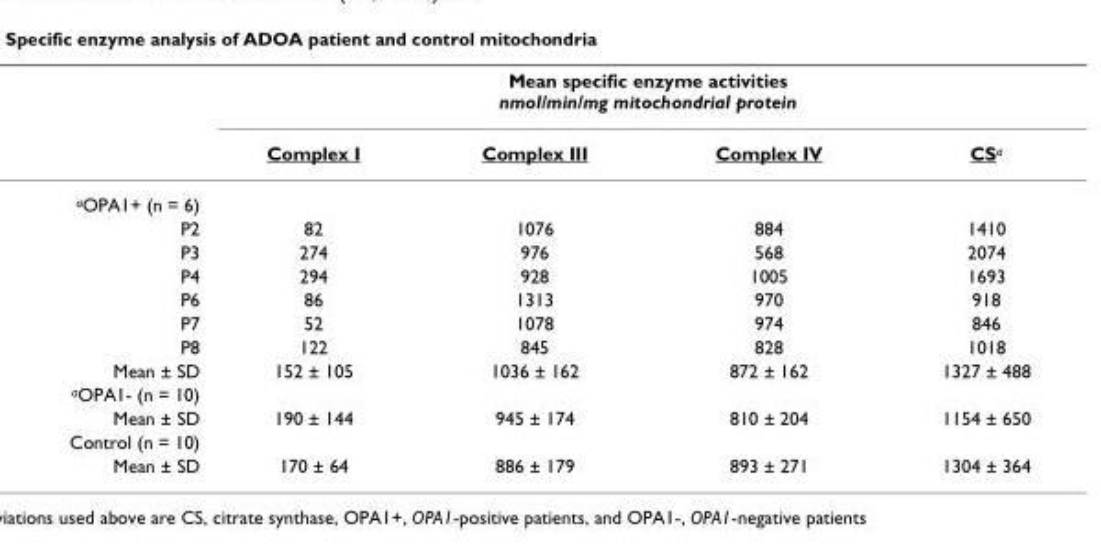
<table><thead><tr><td rowspan="2"></td><td colspan="4">Mean specific enzyme activities nmol/min/mg mitochondrial protein</td></tr><tr><td>Complex I</td><td>Complex III</td><td>Complex IV</td><td>CS<sup>a</sup></td></tr></thead><tbody><tr><td colspan="5"><sup>a</sup>OPA1+ (n = 6)</td></tr><tr><td>P2</td><td>82</td><td>1076</td><td>884</td><td>1410</td></tr><tr><td>P3</td><td>274</td><td>976</td><td>568</td><td>2074</td></tr><tr><td>P4</td><td>294</td><td>928</td><td>1005</td><td>1693</td></tr><tr><td>P6</td><td>86</td><td>1313</td><td>970</td><td>918</td></tr><tr><td>P7</td><td>52</td><td>1078</td><td>974</td><td>846</td></tr><tr><td>P8</td><td>122</td><td>845</td><td>828</td><td>1018</td></tr><tr><td>Mean ± SD</td><td>152 ± 105</td><td>1036 ± 162</td><td>872 ± 162</td><td>1327 ± 488</td></tr><tr><td colspan="5"><sup>a</sup>OPA1- (n = 10)</td></tr><tr><td>Mean ± SD</td><td>190 ± 144</td><td>945 ± 174</td><td>810 ± 204</td><td>1154 ± 650</td></tr><tr><td colspan="5">Control (n = 10)</td></tr><tr><td>Mean ± SD</td><td>170 ± 64</td><td>886 ± 179</td><td>893 ± 271</td><td>1304 ± 364</td></tr></tbody></table>